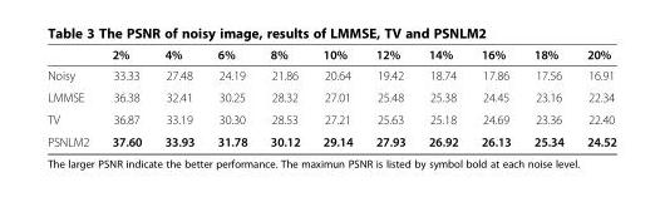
<table><thead><tr><td></td><td>2%</td><td>4%</td><td>6%</td><td>8%</td><td>10%</td><td>12%</td><td>14%</td><td>16%</td><td>18%</td><td>20%</td></tr></thead><tbody><tr><td>Noisy</td><td>33.33</td><td>27.48</td><td>24.19</td><td>21.86</td><td>20.64</td><td>19.42</td><td>18.74</td><td>17.86</td><td>17.56</td><td>16.91</td></tr><tr><td>LMMSE</td><td>36.38</td><td>32.41</td><td>30.25</td><td>28.32</td><td>27.01</td><td>25.48</td><td>25.38</td><td>24.45</td><td>23.16</td><td>22.34</td></tr><tr><td>TV</td><td>36.87</td><td>33.19</td><td>30.30</td><td>28.53</td><td>27.21</td><td>25.63</td><td>25.18</td><td>24.69</td><td>23.36</td><td>22.40</td></tr><tr><td>PSNLM2</td><td>37.60</td><td>33.93</td><td>31.78</td><td>30.12</td><td>29.14</td><td>27.93</td><td>26.92</td><td>26.13</td><td>25.34</td><td>24.52</td></tr></tbody></table>